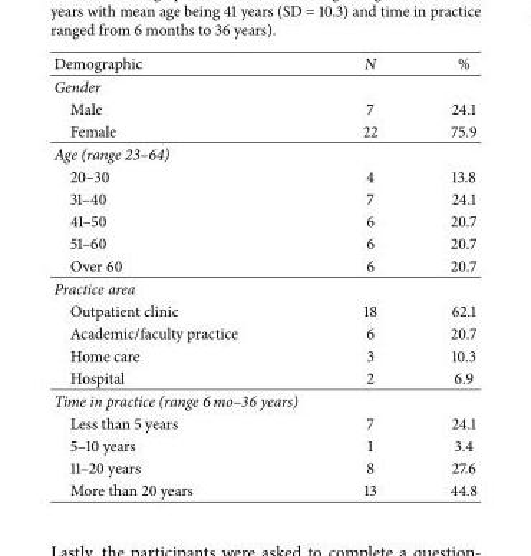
<table><thead><tr><td>Demographic</td><td>N</td><td>%</td></tr></thead><tbody><tr><td colspan="3">Gender</td></tr><tr><td>Male</td><td>7</td><td>24.1</td></tr><tr><td>Female</td><td>22</td><td>75.9</td></tr><tr><td colspan="3">Age (range 23–64)</td></tr><tr><td>20–30</td><td>4</td><td>13.8</td></tr><tr><td>31–40</td><td>7</td><td>24.1</td></tr><tr><td>41–50</td><td>6</td><td>20.7</td></tr><tr><td>51–60</td><td>6</td><td>20.7</td></tr><tr><td>Over 60</td><td>6</td><td>20.7</td></tr><tr><td colspan="3">Practice area</td></tr><tr><td>Outpatient clinic</td><td>18</td><td>62.1</td></tr><tr><td>Academic/faculty practice</td><td>6</td><td>20.7</td></tr><tr><td>Home care</td><td>3</td><td>10.3</td></tr><tr><td>Hospital</td><td>2</td><td>6.9</td></tr><tr><td colspan="3">Time in practice (range 6 mo–36 years)</td></tr><tr><td>Less than 5 years</td><td>7</td><td>24.1</td></tr><tr><td>5–10 years</td><td>1</td><td>3.4</td></tr><tr><td>11–20 years</td><td>8</td><td>27.6</td></tr><tr><td>More than 20 years</td><td>13</td><td>44.8</td></tr></tbody></table>